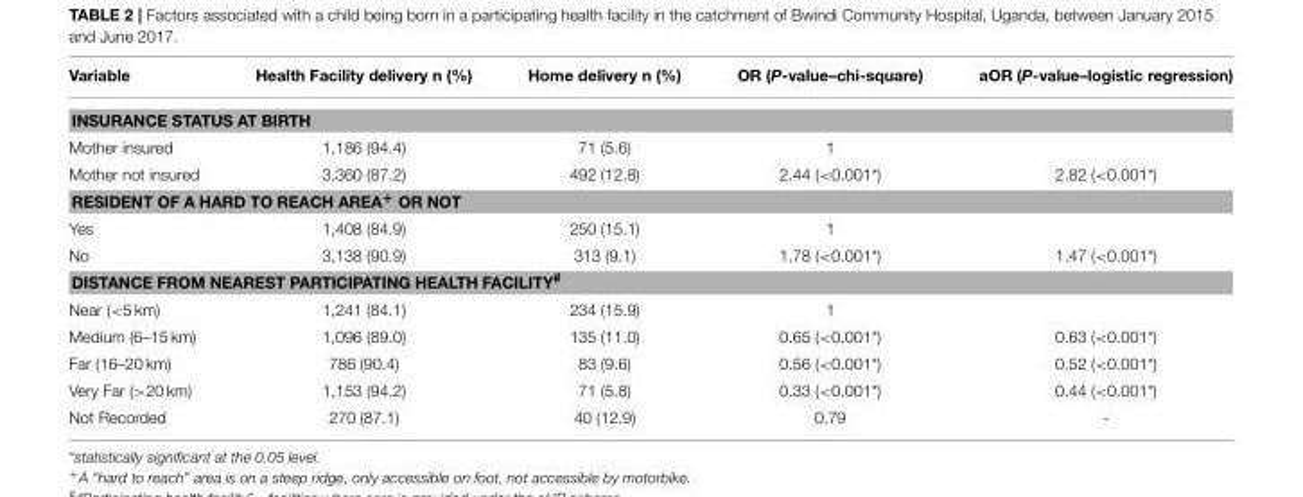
<table><thead><tr><td>Variable</td><td>Health Facility delivery n (%)</td><td>Home delivery n (%)</td><td>OR (P-value–chi-square)</td><td>aOR (P-value–logistic regression)</td></tr></thead><tbody><tr><td colspan="5">INSURANCE STATUS AT BIRTH</td></tr><tr><td>Mother insured</td><td>1,186 (94.4)</td><td>71 (5.6)</td><td>1</td><td></td></tr><tr><td>Mother not insured</td><td>3,360 (87.2)</td><td>492 (12.8)</td><td>2.44 (&lt;0.001*)</td><td>2.82 (&lt;0.001*)</td></tr><tr><td colspan="5">RESIDENT OF A HARD TO REACH AREA<sup>+</sup> OR NOT</td></tr><tr><td>Yes</td><td>1,408 (84.9)</td><td>250 (15.1)</td><td>1</td><td></td></tr><tr><td>No</td><td>3,138 (90.9)</td><td>313 (9.1)</td><td>1.78 (&lt;0.001*)</td><td>1.47 (&lt;0.001*)</td></tr><tr><td colspan="5">DISTANCE FROM NEAREST PARTICIPATING HEALTH FACILITY<sup>#</sup></td></tr><tr><td>Near (&lt;5 km)</td><td>1,241 (84.1)</td><td>234 (15.9)</td><td>1</td><td></td></tr><tr><td>Medium (6–15 km)</td><td>1,096 (89.0)</td><td>135 (11.0)</td><td>0.65 (&lt;0.001*)</td><td>0.63 (&lt;0.001*)</td></tr><tr><td>Far (16–20 km)</td><td>786 (90.4)</td><td>83 (9.6)</td><td>0.56 (&lt;0.001*)</td><td>0.52 (&lt;0.001*)</td></tr><tr><td>Very Far (&gt;20 km)</td><td>1,153 (94.2)</td><td>71 (5.8)</td><td>0.33 (&lt;0.001*)</td><td>0.44 (&lt;0.001*)</td></tr><tr><td>Not Recorded</td><td>270 (87.1)</td><td>40 (12.9)</td><td>0.79</td><td>-</td></tr></tbody></table>